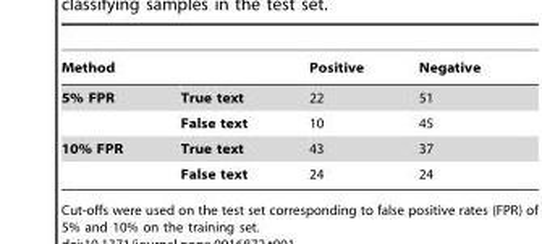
<table><thead><tr><td>Method</td><td></td><td>Positive</td><td>Negative</td></tr></thead><tbody><tr><td rowspan="2">5% FPR</td><td>True text</td><td>22</td><td>51</td></tr><tr><td>False text</td><td>10</td><td>45</td></tr><tr><td rowspan="2">10% FPR</td><td>True text</td><td>43</td><td>37</td></tr><tr><td>False text</td><td>24</td><td>24</td></tr></tbody></table>